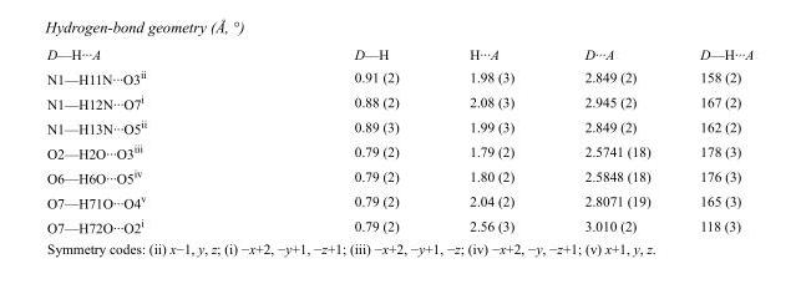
<table><tbody><tr><td>D—H···A</td><td>D—H</td><td>H···A</td><td>D···A</td><td>D—H···A</td></tr><tr><td>N1—H11N···O3<sup>ii</sup></td><td>0.91 (2)</td><td>1.98 (3)</td><td>2.849 (2)</td><td>158 (2)</td></tr><tr><td>N1—H12N···O7<sup>i</sup></td><td>0.88 (2)</td><td>2.08 (3)</td><td>2.945 (2)</td><td>167 (2)</td></tr><tr><td>N1—H13N···O5<sup>ii</sup></td><td>0.89 (3)</td><td>1.99 (3)</td><td>2.849 (2)</td><td>162 (2)</td></tr><tr><td>O2—H2O···O3<sup>iii</sup></td><td>0.79 (2)</td><td>1.79 (2)</td><td>2.5741 (18)</td><td>178 (3)</td></tr><tr><td>O6—H6O···O5<sup>iv</sup></td><td>0.79 (2)</td><td>1.80 (2)</td><td>2.5848 (18)</td><td>176 (3)</td></tr><tr><td>O7—H71O···O4<sup>v</sup></td><td>0.79 (2)</td><td>2.04 (2)</td><td>2.8071 (19)</td><td>165 (3)</td></tr><tr><td>O7—H72O···O2<sup>i</sup></td><td>0.79 (2)</td><td>2.56 (3)</td><td>3.010 (2)</td><td>118 (3)</td></tr></tbody></table>